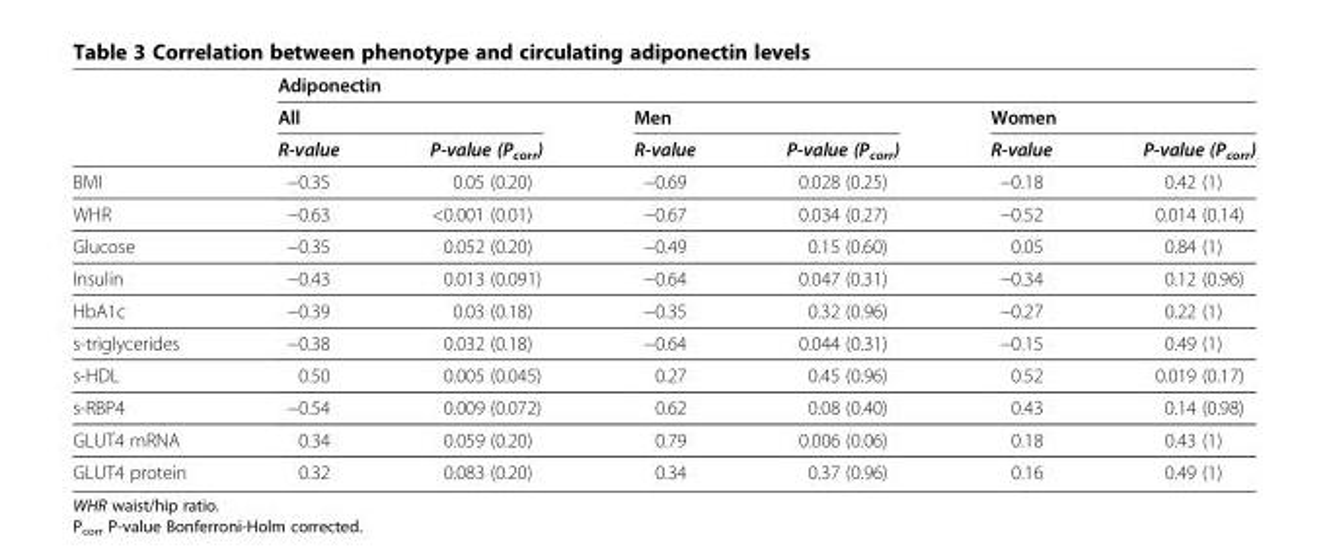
<table><thead><tr><td rowspan="3"></td><td colspan="6">Adiponectin</td></tr><tr><td colspan="2">All</td><td colspan="2">Men</td><td colspan="2">Women</td></tr><tr><td>R-value</td><td>P-value (P<sub>corr</sub>)</td><td>R-value</td><td>P-value (P<sub>corr</sub>)</td><td>R-value</td><td>P-value (P<sub>corr</sub>)</td></tr></thead><tbody><tr><td>BMI</td><td>−0.35</td><td>0.05 (0.20)</td><td>−0.69</td><td>0.028 (0.25)</td><td>−0.18</td><td>0.42 (1)</td></tr><tr><td>WHR</td><td>−0.63</td><td>&lt;0.001 (0.01)</td><td>−0.67</td><td>0.034 (0.27)</td><td>−0.52</td><td>0.014 (0.14)</td></tr><tr><td>Glucose</td><td>−0.35</td><td>0.052 (0.20)</td><td>−0.49</td><td>0.15 (0.60)</td><td>0.05</td><td>0.84 (1)</td></tr><tr><td>Insulin</td><td>−0.43</td><td>0.013 (0.091)</td><td>−0.64</td><td>0.047 (0.31)</td><td>−0.34</td><td>0.12 (0.96)</td></tr><tr><td>HbA1c</td><td>−0.39</td><td>0.03 (0.18)</td><td>−0.35</td><td>0.32 (0.96)</td><td>−0.27</td><td>0.22 (1)</td></tr><tr><td>s-triglycerides</td><td>−0.38</td><td>0.032 (0.18)</td><td>−0.64</td><td>0.044 (0.31)</td><td>−0.15</td><td>0.49 (1)</td></tr><tr><td>s-HDL</td><td>0.50</td><td>0.005 (0.045)</td><td>0.27</td><td>0.45 (0.96)</td><td>0.52</td><td>0.019 (0.17)</td></tr><tr><td>s-RBP4</td><td>−0.54</td><td>0.009 (0.072)</td><td>0.62</td><td>0.08 (0.40)</td><td>0.43</td><td>0.14 (0.98)</td></tr><tr><td>GLUT4 mRNA</td><td>0.34</td><td>0.059 (0.20)</td><td>0.79</td><td>0.006 (0.06)</td><td>0.18</td><td>0.43 (1)</td></tr><tr><td>GLUT4 protein</td><td>0.32</td><td>0.083 (0.20)</td><td>0.34</td><td>0.37 (0.96)</td><td>0.16</td><td>0.49 (1)</td></tr></tbody></table>